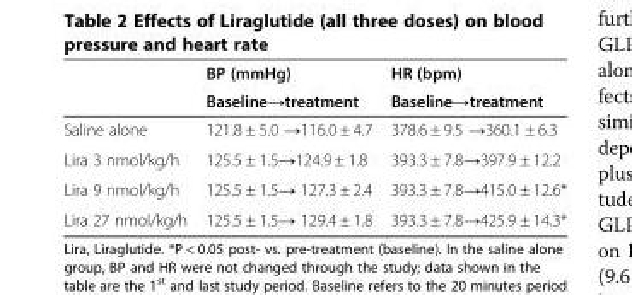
<table><thead><tr><td rowspan="2"></td><td rowspan="2">BP (mmHg) Baseline→treatment</td><td rowspan="2">HR (bpm) Baseline→treatment</td></tr><tr></tr></thead><tbody><tr><td>Saline alone</td><td>121.8 ± 5.0 →116.0 ± 4.7</td><td>378.6 ± 9.5 →360.1 ± 6.3</td></tr><tr><td>Lira 3 nmol/kg/h</td><td>125.5 ± 1.5→124.9 ± 1.8</td><td>393.3 ± 7.8→397.9 ± 12.2</td></tr><tr><td>Lira 9 nmol/kg/h</td><td>125.5 ± 1.5→ 127.3 ± 2.4</td><td>393.3 ± 7.8→415.0 ± 12.6*</td></tr><tr><td>Lira 27 nmol/kg/h</td><td>125.5 ± 1.5→ 129.4 ± 1.8</td><td>393.3 ± 7.8→425.9 ± 14.3*</td></tr></tbody></table>